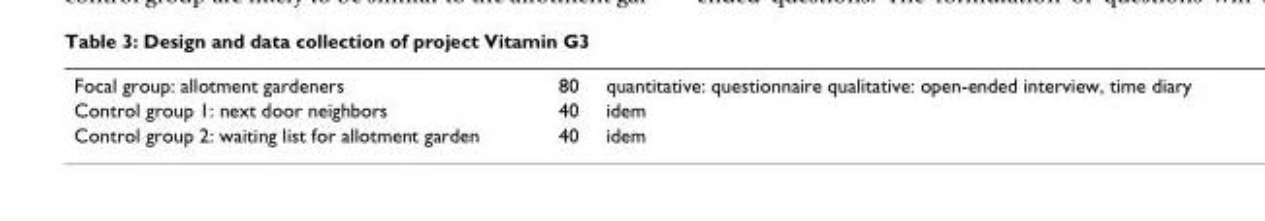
<table><tbody><tr><td>Focal group: allotment gardeners</td><td>80</td><td>quantitative: questionnaire qualitative: open-ended interview, time diary</td></tr><tr><td>Control group 1: next door neighbors</td><td>40</td><td>idem</td></tr><tr><td>Control group 2: waiting list for allotment garden</td><td>40</td><td>idem</td></tr></tbody></table>